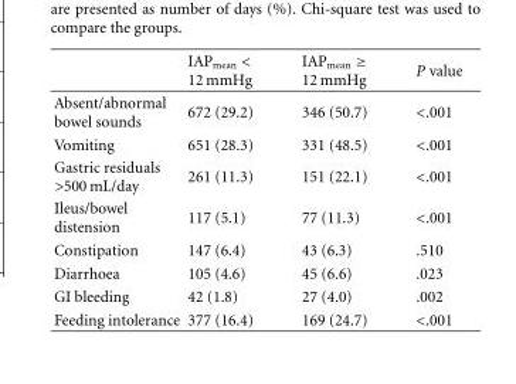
<table><thead><tr><td></td><td>IAP<sub>mean</sub> &lt; 12 mmHg</td><td>IAP<sub>mean</sub> ≥ 12 mmHg</td><td>P value</td></tr></thead><tbody><tr><td>Absent/abnormal bowel sounds</td><td>672 (29.2)</td><td>346 (50.7)</td><td>&lt;.001</td></tr><tr><td>Vomiting</td><td>651 (28.3)</td><td>331 (48.5)</td><td>&lt;.001</td></tr><tr><td>Gastric residuals &gt;500 mL/day</td><td>261 (11.3)</td><td>151 (22.1)</td><td>&lt;.001</td></tr><tr><td>Ileus/bowel distension</td><td>117 (5.1)</td><td>77 (11.3)</td><td>&lt;.001</td></tr><tr><td>Constipation</td><td>147 (6.4)</td><td>43 (6.3)</td><td>.510</td></tr><tr><td>Diarrhoea</td><td>105 (4.6)</td><td>45 (6.6)</td><td>.023</td></tr><tr><td>GI bleeding</td><td>42 (1.8)</td><td>27 (4.0)</td><td>.002</td></tr><tr><td>Feeding intolerance</td><td>377 (16.4)</td><td>169 (24.7)</td><td>&lt;.001</td></tr></tbody></table>